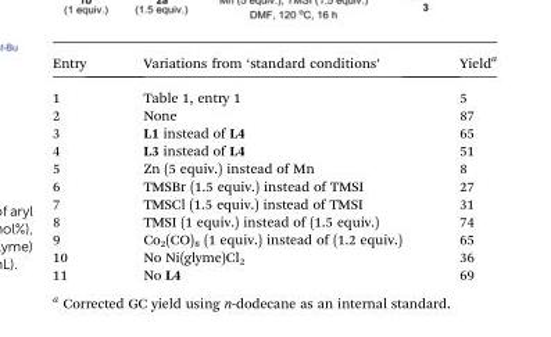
<table><thead><tr><td>Entry</td><td>Variations from ‘standard conditions’</td><td>Yield<sup>a</sup></td></tr></thead><tbody><tr><td>1</td><td>Table 1, entry 1</td><td>5</td></tr><tr><td>2</td><td>None</td><td>87</td></tr><tr><td>3</td><td>L1 instead of L4</td><td>65</td></tr><tr><td>4</td><td>L3 instead of L4</td><td>51</td></tr><tr><td>5</td><td>Zn (5 equiv.) instead of Mn</td><td>8</td></tr><tr><td>6</td><td>TMSBr (1.5 equiv.) instead of TMSI</td><td>27</td></tr><tr><td>7</td><td>TMSCl (1.5 equiv.) instead of TMSI</td><td>31</td></tr><tr><td>8</td><td>TMSI (1 equiv.) instead of (1.5 equiv.)</td><td>74</td></tr><tr><td>9</td><td>Co<sub>2</sub>(CO)<sub>8</sub> (1 equiv.) instead of (1.2 equiv.)</td><td>65</td></tr><tr><td>10</td><td>No Ni(glyme)Cl<sub>2</sub></td><td>36</td></tr><tr><td>11</td><td>No L4</td><td>69</td></tr></tbody></table>